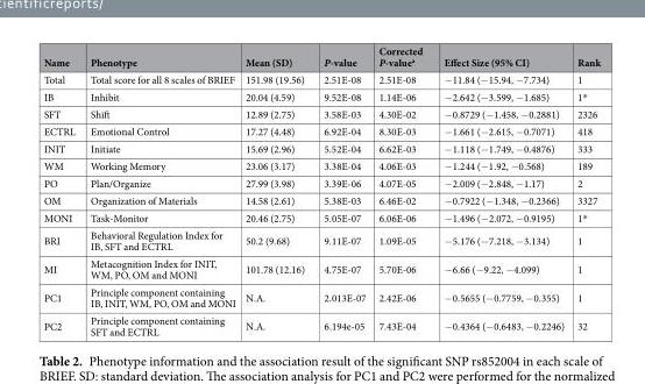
<table><thead><tr><td>Name</td><td>Phenotype</td><td>Mean (SD)</td><td>P-value</td><td>Corrected P-value<sup>a</sup></td><td>Effect Size (95% CI)</td><td>Rank</td></tr></thead><tbody><tr><td>Total</td><td>Total score for all 8 scales of BRIEF</td><td>151.98 (19.56)</td><td>2.51E-08</td><td>2.51E-08</td><td>−11.84 (−15.94, −7.734)</td><td>1</td></tr><tr><td>IB</td><td>Inhibit</td><td>20.04 (4.59)</td><td>9.52E-08</td><td>1.14E-06</td><td>−2.642 (−3.599, −1.685)</td><td>1*</td></tr><tr><td>SFT</td><td>Shift</td><td>12.89 (2.75)</td><td>3.58E-03</td><td>4.30E-02</td><td>−0.8729 (−1.458, −0.2881)</td><td>2326</td></tr><tr><td>ECTRL</td><td>Emotional Control</td><td>17.27 (4.48)</td><td>6.92E-04</td><td>8.30E-03</td><td>−1.661 (−2.615, −0.7071)</td><td>418</td></tr><tr><td>INIT</td><td>Initiate</td><td>15.69 (2.96)</td><td>5.52E-04</td><td>6.62E-03</td><td>−1.118 (−1.749, −0.4876)</td><td>333</td></tr><tr><td>WM</td><td>Working Memory</td><td>23.06 (3.17)</td><td>3.38E-04</td><td>4.06E-03</td><td>−1.244 (−1.92, −0.568)</td><td>189</td></tr><tr><td>PO</td><td>Plan/Organize</td><td>27.99 (3.98)</td><td>3.39E-06</td><td>4.07E-05</td><td>−2.009 (−2.848, −1.17)</td><td>2</td></tr><tr><td>OM</td><td>Organization of Materials</td><td>14.58 (2.61)</td><td>5.38E-03</td><td>6.46E-02</td><td>−0.7922 (−1.348, −0.2366)</td><td>3327</td></tr><tr><td>MONI</td><td>Task-Monitor</td><td>20.46 (2.75)</td><td>5.05E-07</td><td>6.06E-06</td><td>−1.496 (−2.072, −0.9195)</td><td>1*</td></tr><tr><td>BRI</td><td>Behavioral Regulation Index for IB, SFT and ECTRL</td><td>50.2 (9.68)</td><td>9.11E-07</td><td>1.09E-05</td><td>−5.176 (−7.218, −3.134)</td><td>1</td></tr><tr><td>MI</td><td>Metacognition Index for INIT, WM, PO, OM and MONI</td><td>101.78 (12.16)</td><td>4.75E-07</td><td>5.70E-06</td><td>−6.66 (−9.22, −4.099)</td><td>1</td></tr><tr><td>PC1</td><td>Principle component containing IB, INIT, WM, PO, OM and MONI</td><td>N.A.</td><td>2.013E-07</td><td>2.42E-06</td><td>−0.5655 (−0.7759, −0.355)</td><td>1</td></tr><tr><td>PC2</td><td>Principle component containing SFT and ECTRL</td><td>N.A.</td><td>6.194e-05</td><td>7.43E-04</td><td>−0.4364 (−0.6483, −0.2246)</td><td>32</td></tr></tbody></table>